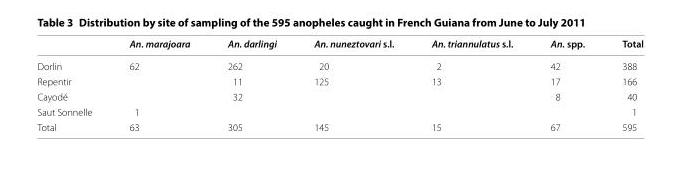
<table><thead><tr><td></td><td>An. marajoara</td><td>An. darlingi</td><td>An. nuneztovari s.l.</td><td>An. triannulatus s.l.</td><td>An. spp.</td><td>Total</td></tr></thead><tbody><tr><td>Dorlin</td><td>62</td><td>262</td><td>20</td><td>2</td><td>42</td><td>388</td></tr><tr><td>Repentir</td><td></td><td>11</td><td>125</td><td>13</td><td>17</td><td>166</td></tr><tr><td>Cayodé</td><td></td><td>32</td><td></td><td></td><td>8</td><td>40</td></tr><tr><td>Saut Sonnelle</td><td>1</td><td></td><td></td><td></td><td></td><td>1</td></tr><tr><td>Total</td><td>63</td><td>305</td><td>145</td><td>15</td><td>67</td><td>595</td></tr></tbody></table>